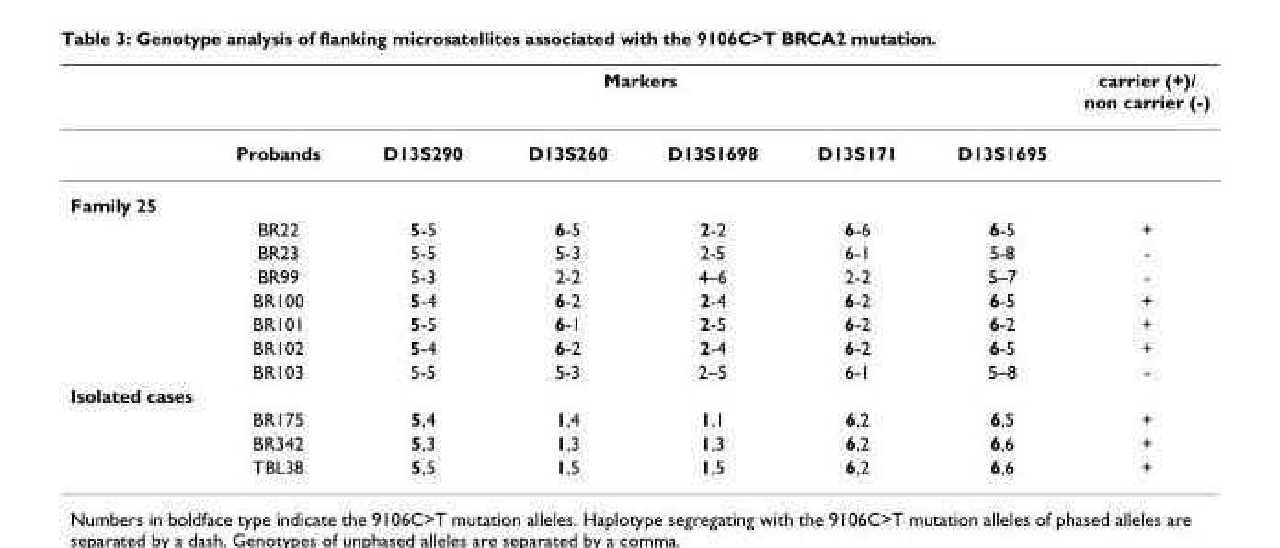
<table><thead><tr><td rowspan="2"></td><td colspan="6">Markers</td><td rowspan="2">carrier (+)/ non carrier (-)</td></tr><tr><td>Probands</td><td>D13S290</td><td>D13S260</td><td>D13S1698</td><td>D13S171</td><td>D13S1695</td></tr></thead><tbody><tr><td colspan="8">Family 25</td></tr><tr><td></td><td>BR22</td><td>5-5</td><td>6-5</td><td>2-2</td><td>6-6</td><td>6-5</td><td>+</td></tr><tr><td></td><td>BR23</td><td>5-5</td><td>5-3</td><td>2-5</td><td>6-1</td><td>5-8</td><td>-</td></tr><tr><td></td><td>BR99</td><td>5-3</td><td>2-2</td><td>4–6</td><td>2-2</td><td>5–7</td><td>-</td></tr><tr><td></td><td>BR100</td><td>5-4</td><td>6-2</td><td>2-4</td><td>6-2</td><td>6-5</td><td>+</td></tr><tr><td></td><td>BR101</td><td>5-5</td><td>6-1</td><td>2-5</td><td>6-2</td><td>6-2</td><td>+</td></tr><tr><td></td><td>BR102</td><td>5-4</td><td>6-2</td><td>2-4</td><td>6-2</td><td>6-5</td><td>+</td></tr><tr><td></td><td>BR103</td><td>5-5</td><td>5-3</td><td>2–5</td><td>6-1</td><td>5–8</td><td>-</td></tr><tr><td colspan="8">Isolated cases</td></tr><tr><td></td><td>BR175</td><td>5,4</td><td>1,4</td><td>1,1</td><td>6,2</td><td>6,5</td><td>+</td></tr><tr><td></td><td>BR342</td><td>5,3</td><td>1,3</td><td>1,3</td><td>6,2</td><td>6,6</td><td>+</td></tr><tr><td></td><td>TBL38</td><td>5,5</td><td>1,5</td><td>1,5</td><td>6,2</td><td>6,6</td><td>+</td></tr></tbody></table>